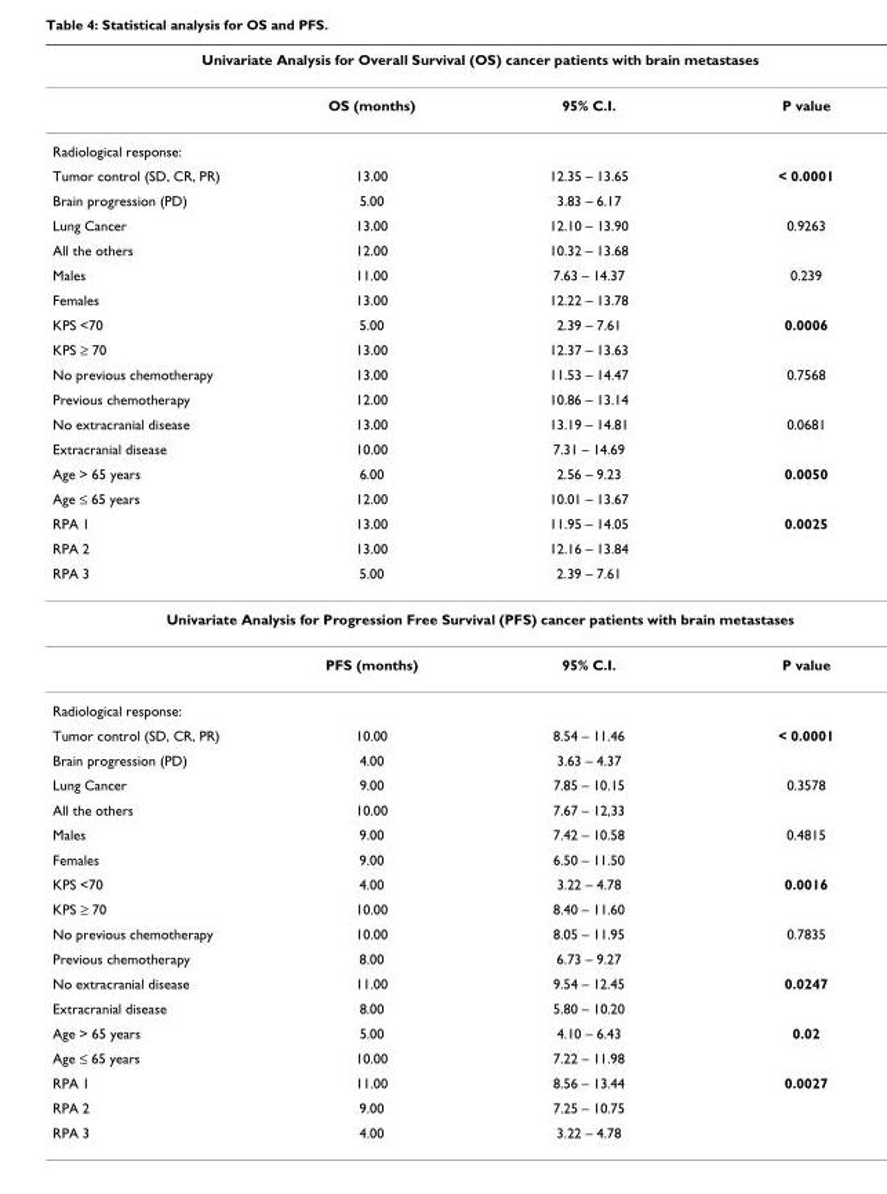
<table><thead><tr><td colspan="4">Univariate Analysis for Overall Survival (OS) cancer patients with brain metastases</td></tr><tr><td></td><td>OS (months)</td><td>95% C.I.</td><td>P value</td></tr></thead><tbody><tr><td colspan="4">Radiological response:</td></tr><tr><td>Tumor control (SD, CR, PR)</td><td>13.00</td><td>12.35 – 13.65</td><td>&lt; 0.0001</td></tr><tr><td>Brain progression (PD)</td><td>5.00</td><td>3.83 – 6.17</td><td></td></tr><tr><td>Lung Cancer</td><td>13.00</td><td>12.10 – 13.90</td><td>0.9263</td></tr><tr><td>All the others</td><td>12.00</td><td>10.32 – 13.68</td><td></td></tr><tr><td>Males</td><td>11.00</td><td>7.63 – 14.37</td><td>0.239</td></tr><tr><td>Females</td><td>13.00</td><td>12.22 – 13.78</td><td></td></tr><tr><td>KPS &lt;70</td><td>5.00</td><td>2.39 – 7.61</td><td>0.0006</td></tr><tr><td>KPS ≥ 70</td><td>13.00</td><td>12.37 – 13.63</td><td></td></tr><tr><td>No previous chemotherapy</td><td>13.00</td><td>11.53 – 14.47</td><td>0.7568</td></tr><tr><td>Previous chemotherapy</td><td>12.00</td><td>10.86 – 13.14</td><td></td></tr><tr><td>No extracranial disease</td><td>13.00</td><td>13.19 – 14.81</td><td>0.0681</td></tr><tr><td>Extracranial disease</td><td>10.00</td><td>7.31 – 14.69</td><td></td></tr><tr><td>Age &gt; 65 years</td><td>6.00</td><td>2.56 – 9.23</td><td>0.0050</td></tr><tr><td>Age ≤ 65 years</td><td>12.00</td><td>10.01 – 13.67</td><td></td></tr><tr><td>RPA 1</td><td>13.00</td><td>11.95 – 14.05</td><td>0.0025</td></tr><tr><td>RPA 2</td><td>13.00</td><td>12.16 – 13.84</td><td></td></tr><tr><td>RPA 3</td><td>5.00</td><td>2.39 – 7.61</td><td></td></tr><tr><td colspan="4">Univariate Analysis for Progression Free Survival (PFS) cancer patients with brain metastases</td></tr><tr><td></td><td>PFS (months)</td><td>95% C.I.</td><td>P value</td></tr><tr><td colspan="4">Radiological response:</td></tr><tr><td>Tumor control (SD, CR, PR)</td><td>10.00</td><td>8.54 – 11.46</td><td>&lt; 0.0001</td></tr><tr><td>Brain progression (PD)</td><td>4.00</td><td>3.63 – 4.37</td><td></td></tr><tr><td>Lung Cancer</td><td>9.00</td><td>7.85 – 10.15</td><td>0.3578</td></tr><tr><td>All the others</td><td>10.00</td><td>7.67 – 12,33</td><td></td></tr><tr><td>Males</td><td>9.00</td><td>7.42 – 10.58</td><td>0.4815</td></tr><tr><td>Females</td><td>9.00</td><td>6.50 – 11.50</td><td></td></tr><tr><td>KPS &lt;70</td><td>4.00</td><td>3.22 – 4.78</td><td>0.0016</td></tr><tr><td>KPS ≥ 70</td><td>10.00</td><td>8.40 – 11.60</td><td></td></tr><tr><td>No previous chemotherapy</td><td>10.00</td><td>8.05 – 11.95</td><td>0.7835</td></tr><tr><td>Previous chemotherapy</td><td>8.00</td><td>6.73 – 9.27</td><td></td></tr><tr><td>No extracranial disease</td><td>11.00</td><td>9.54 – 12.45</td><td>0.0247</td></tr><tr><td>Extracranial disease</td><td>8.00</td><td>5.80 – 10.20</td><td></td></tr><tr><td>Age &gt; 65 years</td><td>5.00</td><td>4.10 – 6.43</td><td>0.02</td></tr><tr><td>Age ≤ 65 years</td><td>10.00</td><td>7.22 – 11.98</td><td></td></tr><tr><td>RPA 1</td><td>11.00</td><td>8.56 – 13.44</td><td>0.0027</td></tr><tr><td>RPA 2</td><td>9.00</td><td>7.25 – 10.75</td><td></td></tr><tr><td>RPA 3</td><td>4.00</td><td>3.22 – 4.78</td><td></td></tr></tbody></table>